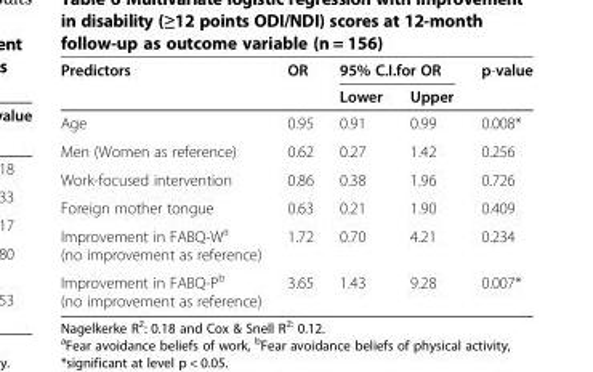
<table><thead><tr><td rowspan="2">Predictors</td><td rowspan="2">OR</td><td colspan="2">95% C.I.for OR</td><td rowspan="2">p-value</td></tr><tr><td>Lower</td><td>Upper</td></tr></thead><tbody><tr><td>Age</td><td>0.95</td><td>0.91</td><td>0.99</td><td>0.008*</td></tr><tr><td>Men (Women as reference)</td><td>0.62</td><td>0.27</td><td>1.42</td><td>0.256</td></tr><tr><td>Work-focused intervention</td><td>0.86</td><td>0.38</td><td>1.96</td><td>0.726</td></tr><tr><td>Foreign mother tongue</td><td>0.63</td><td>0.21</td><td>1.90</td><td>0.409</td></tr><tr><td>Improvement in FABQ-W<sup>a</sup> (no improvement as reference)</td><td>1.72</td><td>0.70</td><td>4.21</td><td>0.234</td></tr><tr><td>Improvement in FABQ-P<sup>b</sup> (no improvement as reference)</td><td>3.65</td><td>1.43</td><td>9.28</td><td>0.007*</td></tr></tbody></table>